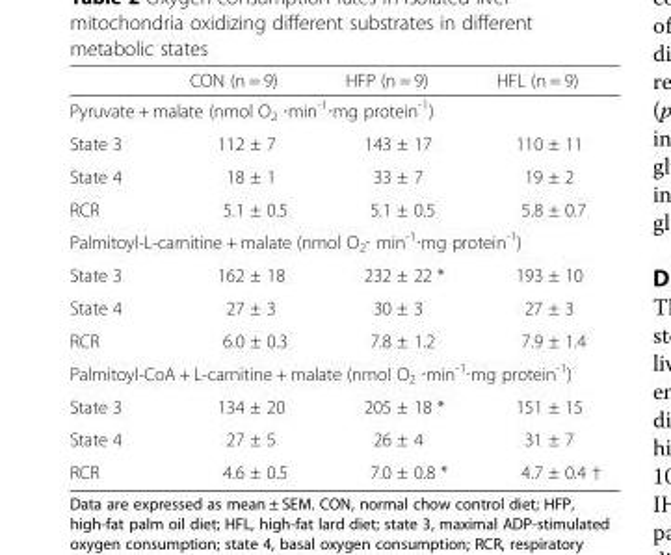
<table><thead><tr><td></td><td>CON (n = 9)</td><td>HFP (n = 9)</td><td>HFL (n = 9)</td></tr></thead><tbody><tr><td colspan="4">Pyruvate + malate (nmol O<sub>2</sub> ∙min<sup>-1</sup>∙mg protein<sup>-1</sup>)</td></tr><tr><td>State 3</td><td>112 ± 7</td><td>143 ± 17</td><td>110 ± 11</td></tr><tr><td>State 4</td><td>18 ± 1</td><td>33 ± 7</td><td>19 ± 2</td></tr><tr><td>RCR</td><td>5.1 ± 0.5</td><td>5.1 ± 0.5</td><td>5.8 ± 0.7</td></tr><tr><td colspan="4">Palmitoyl-L-carnitine + malate (nmol O<sub>2</sub>∙ min<sup>-1</sup>∙mg protein<sup>-1</sup>)</td></tr><tr><td>State 3</td><td>162 ± 18</td><td>232 ± 22 *</td><td>193 ± 10</td></tr><tr><td>State 4</td><td>27 ± 3</td><td>30 ± 3</td><td>27 ± 3</td></tr><tr><td>RCR</td><td>6.0 ± 0.3</td><td>7.8 ± 1.2</td><td>7.9 ± 1.4</td></tr><tr><td colspan="4">Palmitoyl-CoA + L-carnitine + malate (nmol O<sub>2</sub> ∙min<sup>-1</sup>∙mg protein<sup>-1</sup>)</td></tr><tr><td>State 3</td><td>134 ± 20</td><td>205 ± 18 *</td><td>151 ± 15</td></tr><tr><td>State 4</td><td>27 ± 5</td><td>26 ± 4</td><td>31 ± 7</td></tr><tr><td>RCR</td><td>4.6 ± 0.5</td><td>7.0 ± 0.8 *</td><td>4.7 ± 0.4 †</td></tr></tbody></table>